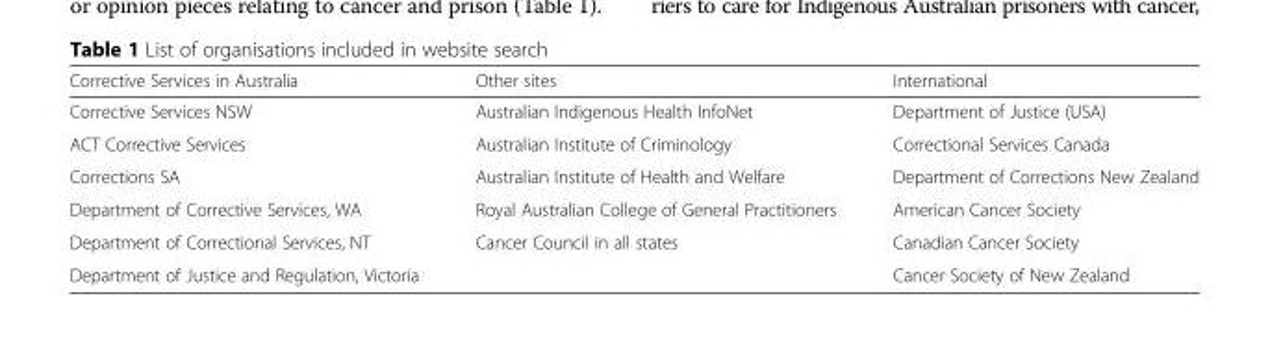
<table><thead><tr><td>Corrective Services in Australia</td><td>Other sites</td><td>International</td></tr></thead><tbody><tr><td>Corrective Services NSW</td><td>Australian Indigenous Health InfoNet</td><td>Department of Justice (USA)</td></tr><tr><td>ACT Corrective Services</td><td>Australian Institute of Criminology</td><td>Correctional Services Canada</td></tr><tr><td>Corrections SA</td><td>Australian Institute of Health and Welfare</td><td>Department of Corrections New Zealand</td></tr><tr><td>Department of Corrective Services, WA</td><td>Royal Australian College of General Practitioners</td><td>American Cancer Society</td></tr><tr><td>Department of Correctional Services, NT</td><td>Cancer Council in all states</td><td>Canadian Cancer Society</td></tr><tr><td>Department of Justice and Regulation, Victoria</td><td></td><td>Cancer Society of New Zealand</td></tr></tbody></table>